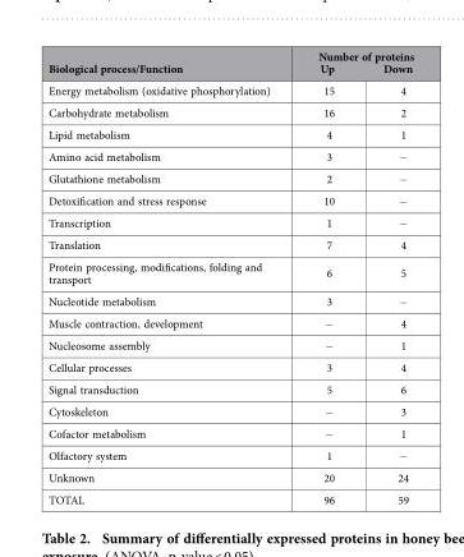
<table><thead><tr><td rowspan="2">Biological process/Function Energy metabolism (oxidative phosphorylation)</td><td colspan="2">Number of proteins Up Down</td></tr><tr><td>15</td><td>4</td></tr></thead><tbody><tr><td>Carbohydrate metabolism</td><td>16</td><td>2</td></tr><tr><td>Lipid metabolism</td><td>4</td><td>1</td></tr><tr><td>Amino acid metabolism</td><td>3</td><td>−</td></tr><tr><td>Glutathione metabolism</td><td>2</td><td>−</td></tr><tr><td>Detoxification and stress response</td><td>10</td><td>−</td></tr><tr><td>Transcription</td><td>1</td><td>−</td></tr><tr><td>Translation</td><td>7</td><td>4</td></tr><tr><td>Protein processing, modifications, folding and transport</td><td>6</td><td>5</td></tr><tr><td>Nucleotide metabolism</td><td>3</td><td>−</td></tr><tr><td>Muscle contraction, development</td><td>−</td><td>4</td></tr><tr><td>Nucleosome assembly</td><td>−</td><td>1</td></tr><tr><td>Cellular processes</td><td>3</td><td>4</td></tr><tr><td>Signal transduction</td><td>5</td><td>6</td></tr><tr><td>Cytoskeleton</td><td>−</td><td>3</td></tr><tr><td>Cofactor metabolism</td><td>−</td><td>1</td></tr><tr><td>Olfactory system</td><td>1</td><td>−</td></tr><tr><td>Unknown</td><td>20</td><td>24</td></tr><tr><td>TOTAL</td><td>96</td><td>59</td></tr></tbody></table>